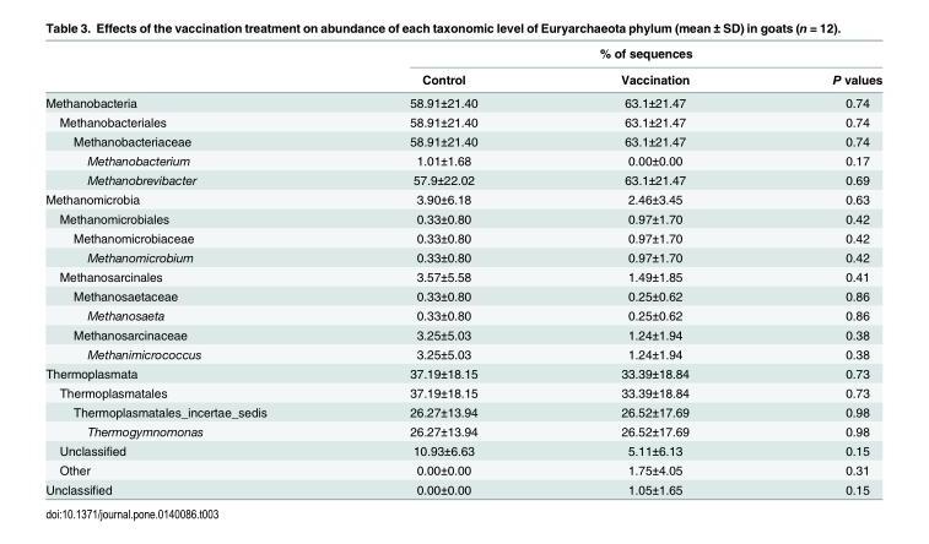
<table><thead><tr><td rowspan="2"></td><td colspan="3">% of sequences</td></tr><tr><td>Control</td><td>Vaccination</td><td>P values</td></tr></thead><tbody><tr><td>Methanobacteria</td><td>58.91±21.40</td><td>63.1±21.47</td><td>0.74</td></tr><tr><td>Methanobacteriales</td><td>58.91±21.40</td><td>63.1±21.47</td><td>0.74</td></tr><tr><td>Methanobacteriaceae</td><td>58.91±21.40</td><td>63.1±21.47</td><td>0.74</td></tr><tr><td>Methanobacterium</td><td>1.01±1.68</td><td>0.00±0.00</td><td>0.17</td></tr><tr><td>Methanobrevibacter</td><td>57.9±22.02</td><td>63.1±21.47</td><td>0.69</td></tr><tr><td>Methanomicrobia</td><td>3.90±6.18</td><td>2.46±3.45</td><td>0.63</td></tr><tr><td>Methanomicrobiales</td><td>0.33±0.80</td><td>0.97±1.70</td><td>0.42</td></tr><tr><td>Methanomicrobiaceae</td><td>0.33±0.80</td><td>0.97±1.70</td><td>0.42</td></tr><tr><td>Methanomicrobium</td><td>0.33±0.80</td><td>0.97±1.70</td><td>0.42</td></tr><tr><td>Methanosarcinales</td><td>3.57±5.58</td><td>1.49±1.85</td><td>0.41</td></tr><tr><td>Methanosaetaceae</td><td>0.33±0.80</td><td>0.25±0.62</td><td>0.86</td></tr><tr><td>Methanosaeta</td><td>0.33±0.80</td><td>0.25±0.62</td><td>0.86</td></tr><tr><td>Methanosarcinaceae</td><td>3.25±5.03</td><td>1.24±1.94</td><td>0.38</td></tr><tr><td>Methanimicrococcus</td><td>3.25±5.03</td><td>1.24±1.94</td><td>0.38</td></tr><tr><td>Thermoplasmata</td><td>37.19±18.15</td><td>33.39±18.84</td><td>0.73</td></tr><tr><td>Thermoplasmatales</td><td>37.19±18.15</td><td>33.39±18.84</td><td>0.73</td></tr><tr><td>Thermoplasmatales_incertae_sedis</td><td>26.27±13.94</td><td>26.52±17.69</td><td>0.98</td></tr><tr><td>Thermogymnomonas</td><td>26.27±13.94</td><td>26.52±17.69</td><td>0.98</td></tr><tr><td>Unclassified</td><td>10.93±6.63</td><td>5.11±6.13</td><td>0.15</td></tr><tr><td>Other</td><td>0.00±0.00</td><td>1.75±4.05</td><td>0.31</td></tr><tr><td>Unclassified</td><td>0.00±0.00</td><td>1.05±1.65</td><td>0.15</td></tr></tbody></table>